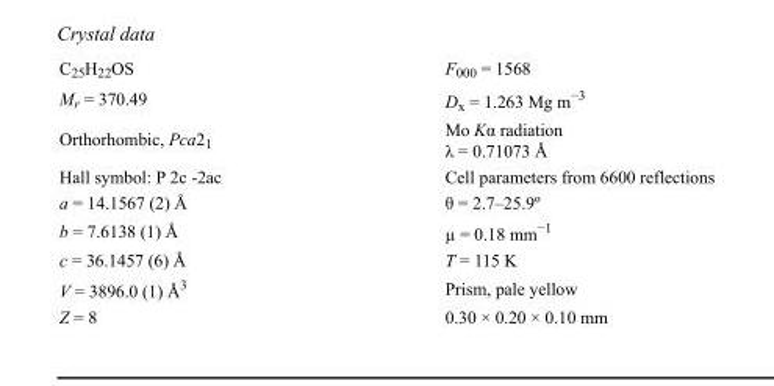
<table><tbody><tr><td>C<sub>25</sub>H<sub>22</sub>OS</td><td>F000 = 1568</td></tr><tr><td>M<sub>r</sub> = 370.49</td><td>D<sub>x</sub> = 1.263 Mg m<sup>−3</sup></td></tr><tr><td>Orthorhombic, Pca2<sub>1</sub></td><td>Mo Kα radiation λ = 0.71073 Å</td></tr><tr><td>Hall symbol: P 2c -2ac</td><td>Cell parameters from 6600 reflections</td></tr><tr><td>a = 14.1567 (2) Å</td><td>θ = 2.7–25.9º</td></tr><tr><td>b = 7.6138 (1) Å</td><td>µ = 0.18 mm<sup>−1</sup></td></tr><tr><td>c = 36.1457 (6) Å</td><td>T = 115 K</td></tr><tr><td>V = 3896.0 (1) Å<sup>3</sup></td><td>Prism, pale yellow</td></tr><tr><td>Z = 8</td><td>0.30 × 0.20 × 0.10 mm</td></tr></tbody></table>